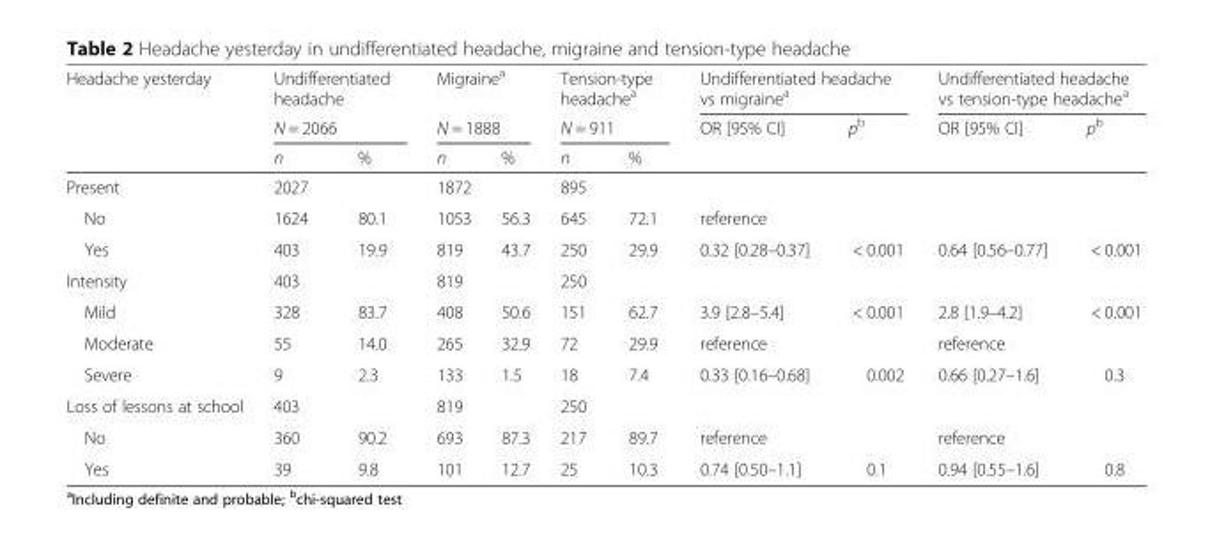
<table><thead><tr><td rowspan="3">Headache yesterday</td><td rowspan="2" colspan="2">Undifferentiated headache N = 2066</td><td rowspan="2" colspan="2">Migraine<sup>a</sup> N = 1888</td><td rowspan="2" colspan="2">Tension-type headache<sup>a</sup> N = 911</td><td colspan="2">Undifferentiated headache vs migraine<sup>a</sup></td><td colspan="2">Undifferentiated headache vs tension-type headache<sup>a</sup></td></tr><tr><td rowspan="2">OR [95% CI]</td><td rowspan="2">p<sup>b</sup></td><td rowspan="2">OR [95% CI]</td><td rowspan="2">p<sup>b</sup></td></tr><tr><td>n</td><td>%</td><td>n</td><td>%</td><td>n</td><td>%</td></tr></thead><tbody><tr><td>Present</td><td>2027</td><td></td><td>1872</td><td></td><td>895</td><td></td><td colspan="4"></td></tr><tr><td>No</td><td>1624</td><td>80.1</td><td>1053</td><td>56.3</td><td>645</td><td>72.1</td><td>reference</td><td></td><td></td><td></td></tr><tr><td>Yes</td><td>403</td><td>19.9</td><td>819</td><td>43.7</td><td>250</td><td>29.9</td><td>0.32 [0.28–0.37]</td><td>&lt; 0.001</td><td>0.64 [0.56–0.77]</td><td>&lt; 0.001</td></tr><tr><td>Intensity</td><td>403</td><td></td><td>819</td><td></td><td>250</td><td></td><td colspan="4"></td></tr><tr><td>Mild</td><td>328</td><td>83.7</td><td>408</td><td>50.6</td><td>151</td><td>62.7</td><td>3.9 [2.8–5.4]</td><td>&lt; 0.001</td><td>2.8 [1.9–4.2]</td><td>&lt; 0.001</td></tr><tr><td>Moderate</td><td>55</td><td>14.0</td><td>265</td><td>32.9</td><td>72</td><td>29.9</td><td>reference</td><td></td><td>reference</td><td></td></tr><tr><td>Severe</td><td>9</td><td>2.3</td><td>133</td><td>1.5</td><td>18</td><td>7.4</td><td>0.33 [0.16–0.68]</td><td>0.002</td><td>0.66 [0.27–1.6]</td><td>0.3</td></tr><tr><td>Loss of lessons at school</td><td>403</td><td></td><td>819</td><td></td><td>250</td><td></td><td colspan="4"></td></tr><tr><td>No</td><td>360</td><td>90.2</td><td>693</td><td>87.3</td><td>217</td><td>89.7</td><td>reference</td><td></td><td>reference</td><td></td></tr><tr><td>Yes</td><td>39</td><td>9.8</td><td>101</td><td>12.7</td><td>25</td><td>10.3</td><td>0.74 [0.50–1.1]</td><td>0.1</td><td>0.94 [0.55–1.6]</td><td>0.8</td></tr></tbody></table>